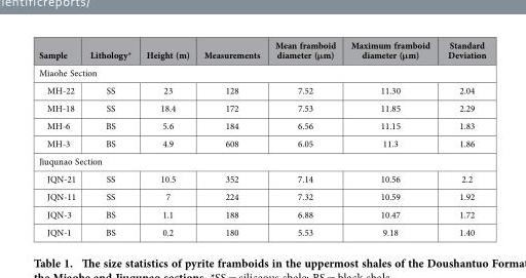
<table><thead><tr><td>Sample</td><td>Lithology*</td><td>Height (m)</td><td>Measurements</td><td>Mean framboid diameter (μm)</td><td>Maximum framboid diameter (μm)</td><td>Standard Deviation</td></tr></thead><tbody><tr><td colspan="7">Miaohe Section</td></tr><tr><td>MH-22</td><td>SS</td><td>23</td><td>128</td><td>7.52</td><td>11.30</td><td>2.04</td></tr><tr><td>MH-18</td><td>SS</td><td>18.4</td><td>172</td><td>7.53</td><td>11.85</td><td>2.29</td></tr><tr><td>MH-6</td><td>BS</td><td>5.6</td><td>184</td><td>6.56</td><td>11.15</td><td>1.83</td></tr><tr><td>MH-3</td><td>BS</td><td>4.9</td><td>608</td><td>6.05</td><td>11.3</td><td>1.86</td></tr><tr><td colspan="7">Jiuqunao Section</td></tr><tr><td>JQN-21</td><td>SS</td><td>10.5</td><td>352</td><td>7.14</td><td>10.56</td><td>2.2</td></tr><tr><td>JQN-11</td><td>SS</td><td>7</td><td>224</td><td>7.32</td><td>10.59</td><td>1.92</td></tr><tr><td>JQN-3</td><td>BS</td><td>1.1</td><td>188</td><td>6.88</td><td>10.47</td><td>1.72</td></tr><tr><td>JQN-1</td><td>BS</td><td>0.2</td><td>180</td><td>5.53</td><td>9.18</td><td>1.40</td></tr></tbody></table>